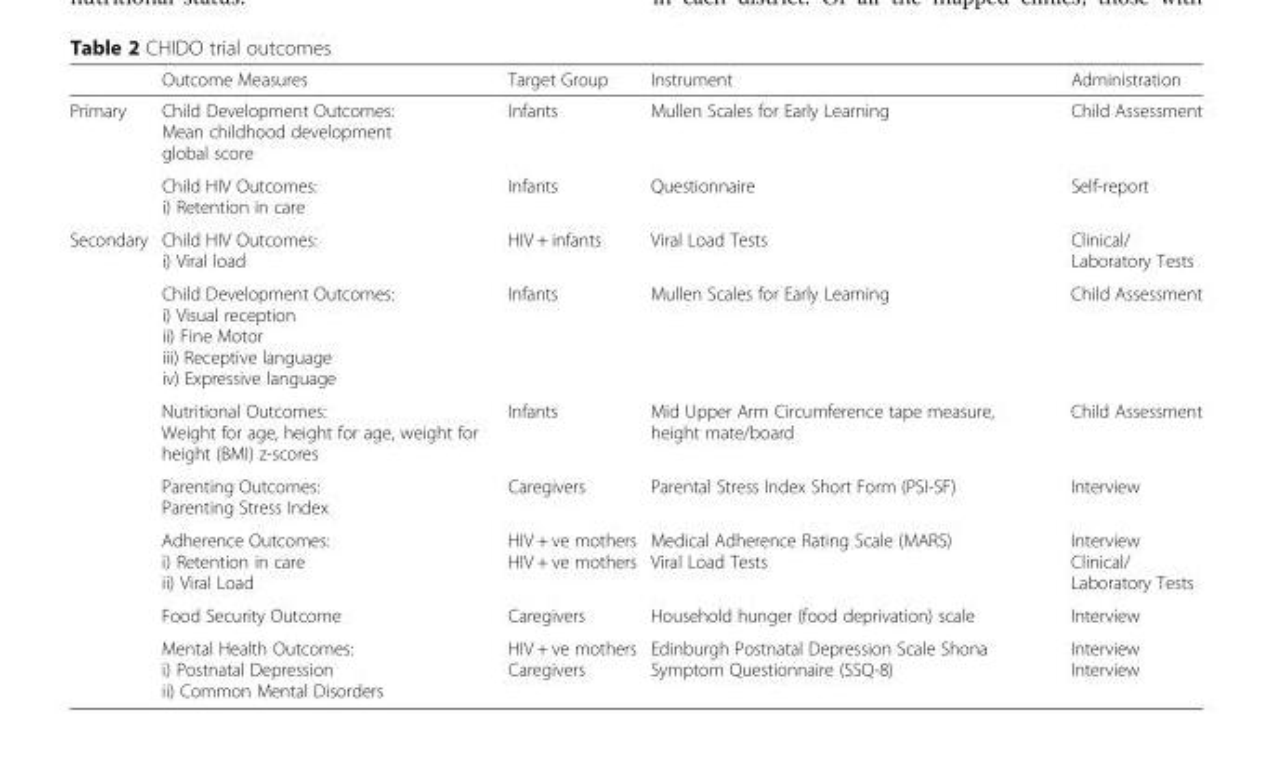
<table><thead><tr><td></td><td>Outcome Measures</td><td>Target Group</td><td>Instrument</td><td>Administration</td></tr></thead><tbody><tr><td rowspan="2">Primary</td><td>Child Development Outcomes: Mean childhood development global score</td><td>Infants</td><td>Mullen Scales for Early Learning</td><td>Child Assessment</td></tr><tr><td>Child HIV Outcomes: i) Retention in care</td><td>Infants</td><td>Questionnaire</td><td>Self-report</td></tr><tr><td rowspan="7">Secondary</td><td>Child HIV Outcomes: i) Viral load</td><td>HIV + infants</td><td>Viral Load Tests</td><td>Clinical/ Laboratory Tests</td></tr><tr><td>Child Development Outcomes: i) Visual reception ii) Fine Motor iii) Receptive language iv) Expressive language</td><td>Infants</td><td>Mullen Scales for Early Learning</td><td>Child Assessment</td></tr><tr><td>Nutritional Outcomes: Weight for age, height for age, weight for height (BMI) z-scores</td><td>Infants</td><td>Mid Upper Arm Circumference tape measure, height mate/board</td><td>Child Assessment</td></tr><tr><td>Parenting Outcomes: Parenting Stress Index</td><td>Caregivers</td><td>Parental Stress Index Short Form (PSI-SF)</td><td>Interview</td></tr><tr><td>Adherence Outcomes: i) Retention in care ii) Viral Load</td><td>HIV + ve mothers HIV + ve mothers</td><td>Medical Adherence Rating Scale (MARS) Viral Load Tests</td><td>Interview Clinical/ Laboratory Tests</td></tr><tr><td>Food Security Outcome</td><td>Caregivers</td><td>Household hunger (food deprivation) scale</td><td>Interview</td></tr><tr><td>Mental Health Outcomes: i) Postnatal Depression ii) Common Mental Disorders</td><td>HIV + ve mothers Caregivers</td><td>Edinburgh Postnatal Depression Scale Shona Symptom Questionnaire (SSQ-8)</td><td>Interview Interview</td></tr></tbody></table>